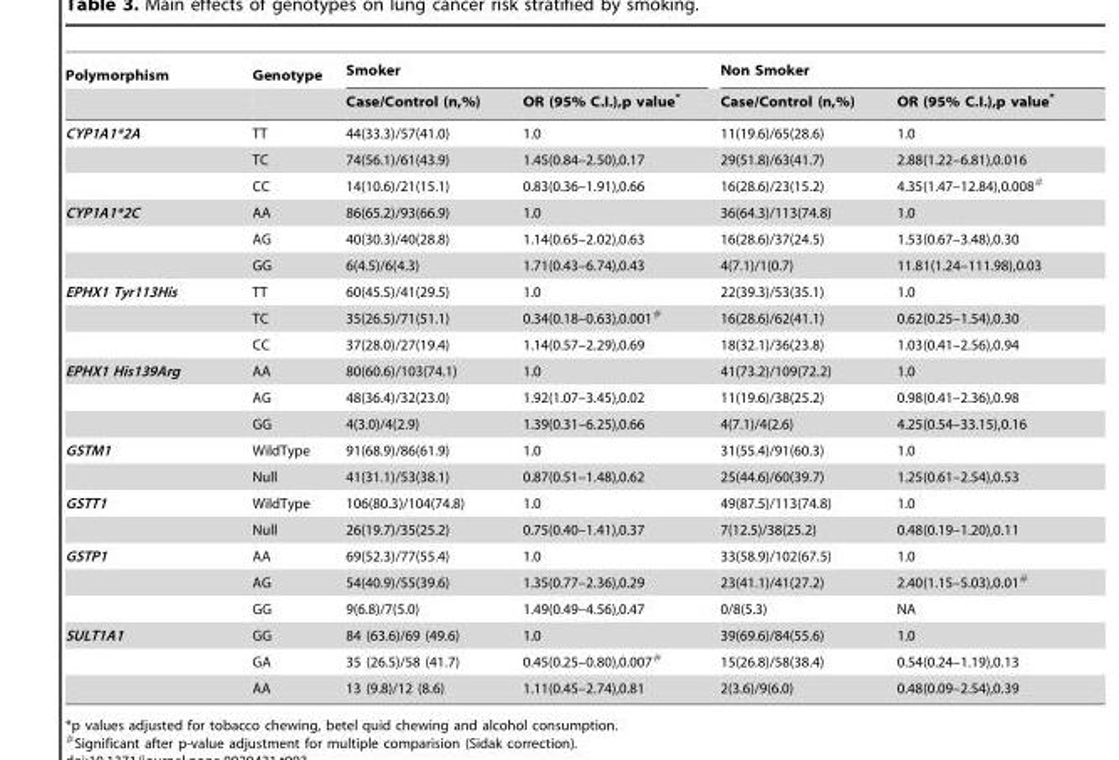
<table><thead><tr><td rowspan="2">Polymorphism</td><td rowspan="2">Genotype</td><td colspan="2">Smoker</td><td colspan="2">Non Smoker</td></tr><tr><td>Case/Control (n,%)</td><td>OR (95% C.I.),p value*</td><td>Case/Control (n,%)</td><td>OR (95% C.I.),p value*</td></tr></thead><tbody><tr><td rowspan="3">CYP1A1*2A</td><td>TT</td><td>44(33.3)/57(41.0)</td><td>1.0</td><td>11(19.6)/65(28.6)</td><td>1.0</td></tr><tr><td>TC</td><td>74(56.1)/61(43.9)</td><td>1.45(0.84–2.50),0.17</td><td>29(51.8)/63(41.7)</td><td>2.88(1.22–6.81),0.016</td></tr><tr><td>CC</td><td>14(10.6)/21(15.1)</td><td>0.83(0.36–1.91),0.66</td><td>16(28.6)/23(15.2)</td><td>4.35(1.47–12.84),0.008#</td></tr><tr><td rowspan="3">CYP1A1*2C</td><td>AA</td><td>86(65.2)/93(66.9)</td><td>1.0</td><td>36(64.3)/113(74.8)</td><td>1.0</td></tr><tr><td>AG</td><td>40(30.3)/40(28.8)</td><td>1.14(0.65–2.02),0.63</td><td>16(28.6)/37(24.5)</td><td>1.53(0.67–3.48),0.30</td></tr><tr><td>GG</td><td>6(4.5)/6(4.3)</td><td>1.71(0.43–6.74),0.43</td><td>4(7.1)/1(0.7)</td><td>11.81(1.24–111.98),0.03</td></tr><tr><td rowspan="3">EPHX1 Tyr113His</td><td>TT</td><td>60(45.5)/41(29.5)</td><td>1.0</td><td>22(39.3)/53(35.1)</td><td>1.0</td></tr><tr><td>TC</td><td>35(26.5)/71(51.1)</td><td>0.34(0.18–0.63),0.001#</td><td>16(28.6)/62(41.1)</td><td>0.62(0.25–1.54),0.30</td></tr><tr><td>CC</td><td>37(28.0)/27(19.4)</td><td>1.14(0.57–2.29),0.69</td><td>18(32.1)/36(23.8)</td><td>1.03(0.41–2.56),0.94</td></tr><tr><td rowspan="3">EPHX1 His139Arg</td><td>AA</td><td>80(60.6)/103(74.1)</td><td>1.0</td><td>41(73.2)/109(72.2)</td><td>1.0</td></tr><tr><td>AG</td><td>48(36.4)/32(23.0)</td><td>1.92(1.07–3.45),0.02</td><td>11(19.6)/38(25.2)</td><td>0.98(0.41–2.36),0.98</td></tr><tr><td>GG</td><td>4(3.0)/4(2.9)</td><td>1.39(0.31–6.25),0.66</td><td>4(7.1)/4(2.6)</td><td>4.25(0.54–33.15),0.16</td></tr><tr><td rowspan="2">GSTM1</td><td>WildType</td><td>91(68.9)/86(61.9)</td><td>1.0</td><td>31(55.4)/91(60.3)</td><td>1.0</td></tr><tr><td>Null</td><td>41(31.1)/53(38.1)</td><td>0.87(0.51–1.48),0.62</td><td>25(44.6)/60(39.7)</td><td>1.25(0.61–2.54),0.53</td></tr><tr><td rowspan="2">GSTT1</td><td>WildType</td><td>106(80.3)/104(74.8)</td><td>1.0</td><td>49(87.5)/113(74.8)</td><td>1.0</td></tr><tr><td>Null</td><td>26(19.7)/35(25.2)</td><td>0.75(0.40–1.41),0.37</td><td>7(12.5)/38(25.2)</td><td>0.48(0.19–1.20),0.11</td></tr><tr><td rowspan="3">GSTP1</td><td>AA</td><td>69(52.3)/77(55.4)</td><td>1.0</td><td>33(58.9)/102(67.5)</td><td>1.0</td></tr><tr><td>AG</td><td>54(40.9)/55(39.6)</td><td>1.35(0.77–2.36),0.29</td><td>23(41.1)/41(27.2)</td><td>2.40(1.15–5.03),0.01#</td></tr><tr><td>GG</td><td>9(6.8)/7(5.0)</td><td>1.49(0.49–4.56),0.47</td><td>0/8(5.3)</td><td>NA</td></tr><tr><td rowspan="3">SULT1A1</td><td>GG</td><td>84 (63.6)/69 (49.6)</td><td>1.0</td><td>39(69.6)/84(55.6)</td><td>1.0</td></tr><tr><td>GA</td><td>35 (26.5)/58 (41.7)</td><td>0.45(0.25–0.80),0.007#</td><td>15(26.8)/58(38.4)</td><td>0.54(0.24–1.19),0.13</td></tr><tr><td>AA</td><td>13 (9.8)/12 (8.6)</td><td>1.11(0.45–2.74),0.81</td><td>2(3.6)/9(6.0)</td><td>0.48(0.09–2.54),0.39</td></tr></tbody></table>